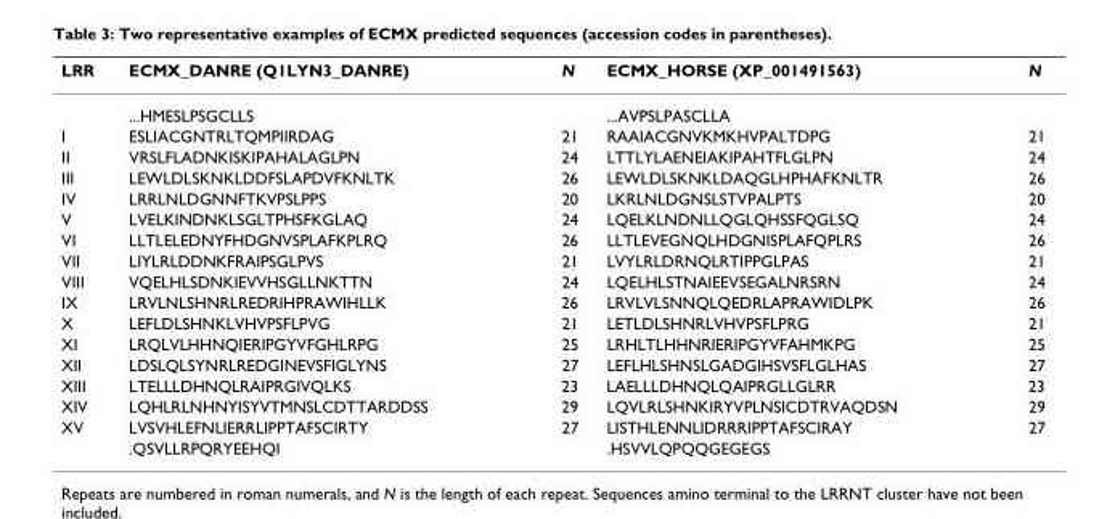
<table><thead><tr><td>LRR</td><td>ECMX_DANRE (Q1LYN3_DANRE)</td><td>N</td><td>ECMX_HORSE (XP_001491563)</td><td>N</td></tr></thead><tbody><tr><td></td><td>...HMESLPSGCLLS</td><td></td><td>...AVPSLPASCLLA</td><td></td></tr><tr><td>I</td><td>ESLIACGNTRLTQMPIIRDAG</td><td>21</td><td>RAAIACGNVKMKHVPALTDPG</td><td>21</td></tr><tr><td>II</td><td>VRSLFLADNKISKIPAHALAGLPN</td><td>24</td><td>LTTLYLAENEIAKIPAHTFLGLPN</td><td>24</td></tr><tr><td>III</td><td>LEWLDLSKNKLDDFSLAPDVFKNLTK</td><td>26</td><td>LEWLDLSKNKLDAQGLHPHAFKNLTR</td><td>26</td></tr><tr><td>IV</td><td>LRRLNLDGNNFTKVPSLPPS</td><td>20</td><td>LKRLNLDGNSLSTVPALPTS</td><td>20</td></tr><tr><td>V</td><td>LVELKINDNKLSGLTPHSFKGLAQ</td><td>24</td><td>LQELKLNDNLLQGLQHSSFQGLSQ</td><td>24</td></tr><tr><td>VI</td><td>LLTLELEDNYFHDGNVSPLAFKPLRQ</td><td>26</td><td>LLTLEVEGNQLHDGNISPLAFQPLRS</td><td>26</td></tr><tr><td>VII</td><td>LIYLRLDDNKFRAIPSGLPVS</td><td>21</td><td>LVYLRLDRNQLRTIPPGLPAS</td><td>21</td></tr><tr><td>VIII</td><td>VQELHLSDNKIEVVHSGLLNKTTN</td><td>24</td><td>LQELHLSTNAIEEVSEGALNRSRN</td><td>24</td></tr><tr><td>IX</td><td>LRVLNLSHNRLREDRIHPRAWIHLLK</td><td>26</td><td>LRVLVLSNNQLQEDRLAPRAWIDLPK</td><td>26</td></tr><tr><td>X</td><td>LEFLDLSHNKLVHVPSFLPVG</td><td>21</td><td>LETLDLSHNRLVHVPSFLPRG</td><td>21</td></tr><tr><td>XI</td><td>LRQLVLHHNQIERIPGYVFGHLRPG</td><td>25</td><td>LRHLTLHHNRIERIPGYVFAHMKPG</td><td>25</td></tr><tr><td>XII</td><td>LDSLQLSYNRLREDGINEVSFIGLYNS</td><td>27</td><td>LEFLHLSHNSLGADGIHSVSFLGLHAS</td><td>27</td></tr><tr><td>XIII</td><td>LTELLLDHNQLRAIPRGIVQLKS</td><td>23</td><td>LAELLLDHNQLQAIPRGLLGLRR</td><td>23</td></tr><tr><td>XIV</td><td>LQHLRLNHNYISYVTMNSLCDTTARDDSS</td><td>29</td><td>LQVLRLSHNKIRYVPLNSICDTRVAQDSN</td><td>29</td></tr><tr><td rowspan="2">XV</td><td>LVSVHLEFNLIERRLIPPTAFSCIRTY</td><td>27</td><td>LISTHLENNLIDRRRIPPTAFSCIRAY</td><td>27</td></tr><tr><td>.QSVLLRPQRYEEHQI</td><td></td><td>.HSVVLQPQQGEGEGS</td><td></td></tr></tbody></table>